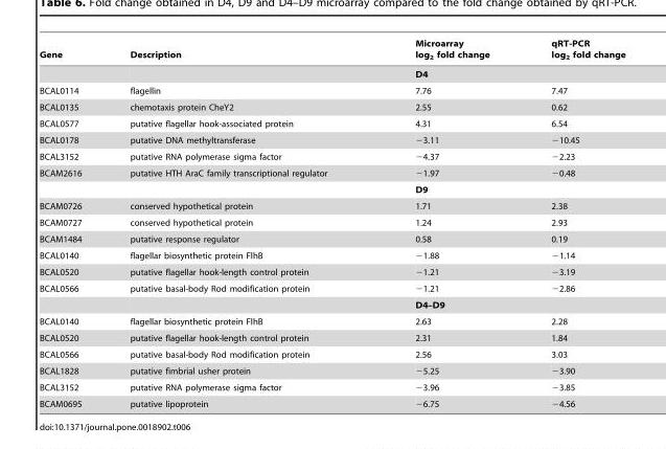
<table><thead><tr><td>Gene</td><td>Description</td><td>Microarray log<sub>2</sub> fold change</td><td>qRT-PCR log<sub>2</sub> fold change</td></tr></thead><tbody><tr><td></td><td></td><td colspan="2">D4</td></tr><tr><td>BCAL0114</td><td>flagellin</td><td>7.76</td><td>7.47</td></tr><tr><td>BCAL0135</td><td>chemotaxis protein CheY2</td><td>2.55</td><td>0.62</td></tr><tr><td>BCAL0577</td><td>putative flagellar hook-associated protein</td><td>4.31</td><td>6.54</td></tr><tr><td>BCAL0178</td><td>putative DNA methyltransferase</td><td>−3.11</td><td>−10.45</td></tr><tr><td>BCAL3152</td><td>putative RNA polymerase sigma factor</td><td>−4.37</td><td>−2.23</td></tr><tr><td rowspan="2">BCAM2616</td><td>putative HTH AraC family transcriptional regulator</td><td>−1.97</td><td>−0.48</td></tr><tr><td></td><td colspan="2">D9</td></tr><tr><td>BCAM0726</td><td>conserved hypothetical protein</td><td>1.71</td><td>2.38</td></tr><tr><td>BCAM0727</td><td>conserved hypothetical protein</td><td>1.24</td><td>2.93</td></tr><tr><td>BCAM1484</td><td>putative response regulator</td><td>0.58</td><td>0.19</td></tr><tr><td>BCAL0140</td><td>flagellar biosynthetic protein FlhB</td><td>−1.88</td><td>−1.14</td></tr><tr><td>BCAL0520</td><td>putative flagellar hook-length control protein</td><td>−1.21</td><td>−3.19</td></tr><tr><td rowspan="2">BCAL0566</td><td>putative basal-body Rod modification protein</td><td>−1.21</td><td>−2.86</td></tr><tr><td></td><td colspan="2">D4–D9</td></tr><tr><td>BCAL0140</td><td>flagellar biosynthetic protein FlhB</td><td>2.63</td><td>2.28</td></tr><tr><td>BCAL0520</td><td>putative flagellar hook-length control protein</td><td>2.31</td><td>1.84</td></tr><tr><td>BCAL0566</td><td>putative basal-body Rod modification protein</td><td>2.56</td><td>3.03</td></tr><tr><td>BCAL1828</td><td>putative fimbrial usher protein</td><td>−5.25</td><td>−3.90</td></tr><tr><td>BCAL3152</td><td>putative RNA polymerase sigma factor</td><td>−3.96</td><td>−3.85</td></tr><tr><td>BCAM0695</td><td>putative lipoprotein</td><td>−6.75</td><td>−4.56</td></tr></tbody></table>